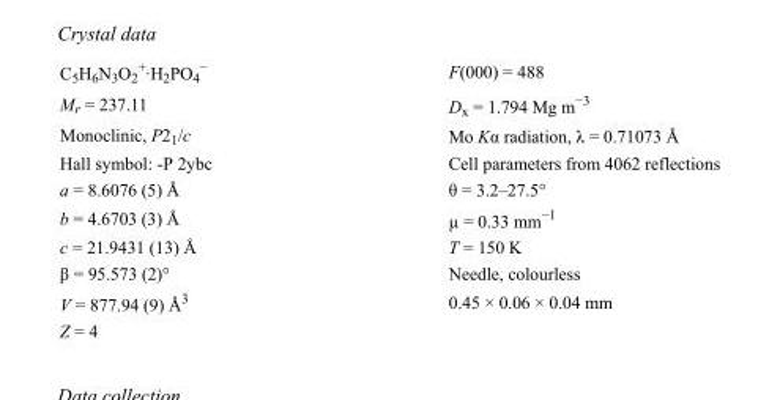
<table><tbody><tr><td>C<sub>5</sub>H<sub>6</sub>N<sub>3</sub>O<sub>2</sub> <sup>+</sup>·H<sub>2</sub>PO<sub>4</sub> <sup>−</sup></td><td>F(000) = 488</td></tr><tr><td>M<sub>r</sub> = 237.11</td><td>D<sub>x</sub> = 1.794 Mg m<sup>−3</sup></td></tr><tr><td>Monoclinic, P2<sub>1</sub>/c</td><td>Mo Kα radiation, λ = 0.71073 Å</td></tr><tr><td>Hall symbol: -P 2ybc</td><td>Cell parameters from 4062 reflections</td></tr><tr><td>a = 8.6076 (5) Å</td><td>θ = 3.2–27.5°</td></tr><tr><td>b = 4.6703 (3) Å</td><td>µ = 0.33 mm<sup>−1</sup></td></tr><tr><td>c = 21.9431 (13) Å</td><td>T = 150 K</td></tr><tr><td>β = 95.573 (2)°</td><td>Needle, colourless</td></tr><tr><td>V = 877.94 (9) Å<sup>3</sup></td><td>0.45 × 0.06 × 0.04 mm</td></tr><tr><td>Z = 4</td><td></td></tr></tbody></table>